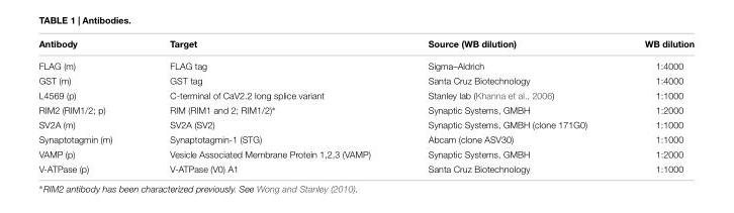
<table><thead><tr><td>Antibody</td><td>Target</td><td>Source (WB dilution)</td><td>WB dilution</td></tr></thead><tbody><tr><td>FLAG (m)</td><td>FLAG tag</td><td>Sigma–Aldrich</td><td>1:4000</td></tr><tr><td>GST (m)</td><td>GST tag</td><td>Santa Cruz Biotechnology</td><td>1:4000</td></tr><tr><td>L4569 (p)</td><td>C-terminal of CaV2.2 long splice variant</td><td>Stanley lab (Khanna et al., 2006)</td><td>1:1000</td></tr><tr><td>RIM2 (RIM1/2; p)</td><td>RIM (RIM1 and 2; RIM1/2)∗</td><td>Synaptic Systems, GMBH</td><td>1:2000</td></tr><tr><td>SV2A (m)</td><td>SV2A (SV2)</td><td>Synaptic Systems, GMBH (clone 171G0)</td><td>1:1000</td></tr><tr><td>Synaptotagmin (m)</td><td>Synaptotagmin-1 (STG)</td><td>Abcam (clone ASV30)</td><td>1:1000</td></tr><tr><td>VAMP (p)</td><td>Vesicle Associated Membrane Protein 1,2,3 (VAMP)</td><td>Synaptic Systems, GMBH</td><td>1:2000</td></tr><tr><td>V-ATPase (p)</td><td>V-ATPase (V0) A1</td><td>Santa Cruz Biotechnology</td><td>1:1000</td></tr></tbody></table>